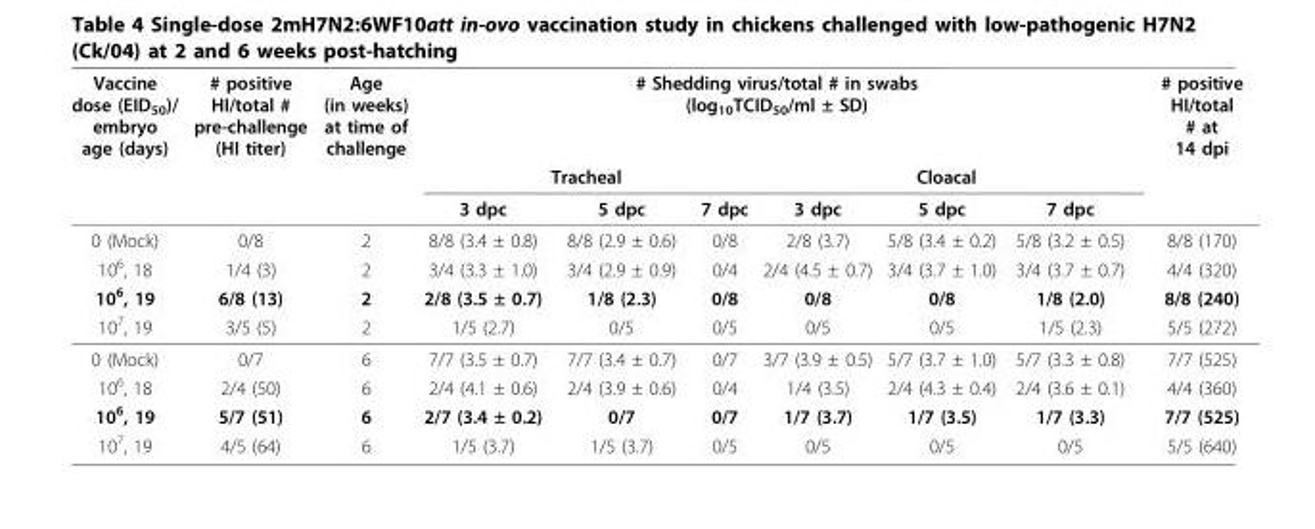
<table><thead><tr><td rowspan="3">Vaccine dose (EID<sub>50</sub>)/ embryo age (days)</td><td rowspan="3"># positive HI/total # pre-challenge (HI titer)</td><td rowspan="3">Age (in weeks) at time of challenge</td><td colspan="6"># Shedding virus/total # in swabs (log<sub>10</sub>TCID<sub>50</sub>/ml ± SD)</td><td rowspan="3"># positive HI/total # at 14 dpi</td></tr><tr><td colspan="3">Tracheal</td><td colspan="3">Cloacal</td></tr><tr><td>3 dpc</td><td>5 dpc</td><td>7 dpc</td><td>3 dpc</td><td>5 dpc</td><td>7 dpc</td></tr></thead><tbody><tr><td>0 (Mock)</td><td>0/8</td><td>2</td><td>8/8 (3.4 ± 0.8)</td><td>8/8 (2.9 ± 0.6)</td><td>0/8</td><td>2/8 (3.7)</td><td>5/8 (3.4 ± 0.2)</td><td>5/8 (3.2 ± 0.5)</td><td>8/8 (170)</td></tr><tr><td>10<sup>6</sup>, 18</td><td>1/4 (3)</td><td>2</td><td>3/4 (3.3 ± 1.0)</td><td>3/4 (2.9 ± 0.9)</td><td>0/4</td><td>2/4 (4.5 ± 0.7)</td><td>3/4 (3.7 ± 1.0)</td><td>3/4 (3.7 ± 0.7)</td><td>4/4 (320)</td></tr><tr><td>10<sup>6</sup>, 19</td><td>6/8 (13)</td><td>2</td><td>2/8 (3.5 ± 0.7)</td><td>1/8 (2.3)</td><td>0/8</td><td>0/8</td><td>0/8</td><td>1/8 (2.0)</td><td>8/8 (240)</td></tr><tr><td>10<sup>7</sup>, 19</td><td>3/5 (5)</td><td>2</td><td>1/5 (2.7)</td><td>0/5</td><td>0/5</td><td>0/5</td><td>0/5</td><td>1/5 (2.3)</td><td>5/5 (272)</td></tr><tr><td>0 (Mock)</td><td>0/7</td><td>6</td><td>7/7 (3.5 ± 0.7)</td><td>7/7 (3.4 ± 0.7)</td><td>0/7</td><td>3/7 (3.9 ± 0.5)</td><td>5/7 (3.7 ± 1.0)</td><td>5/7 (3.3 ± 0.8)</td><td>7/7 (525)</td></tr><tr><td>10<sup>6</sup>, 18</td><td>2/4 (50)</td><td>6</td><td>2/4 (4.1 ± 0.6)</td><td>2/4 (3.9 ± 0.6)</td><td>0/4</td><td>1/4 (3.5)</td><td>2/4 (4.3 ± 0.4)</td><td>2/4 (3.6 ± 0.1)</td><td>4/4 (360)</td></tr><tr><td>10<sup>6</sup>, 19</td><td>5/7 (51)</td><td>6</td><td>2/7 (3.4 ± 0.2)</td><td>0/7</td><td>0/7</td><td>1/7 (3.7)</td><td>1/7 (3.5)</td><td>1/7 (3.3)</td><td>7/7 (525)</td></tr><tr><td>10<sup>7</sup>, 19</td><td>4/5 (64)</td><td>6</td><td>1/5 (3.7)</td><td>1/5 (3.7)</td><td>0/5</td><td>0/5</td><td>0/5</td><td>0/5</td><td>5/5 (640)</td></tr></tbody></table>